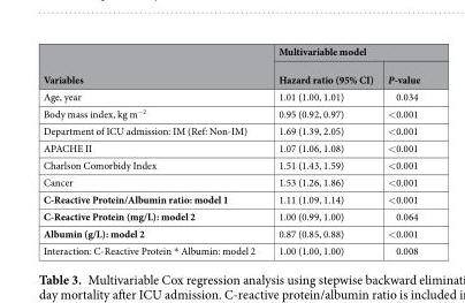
<table><thead><tr><td rowspan="2">Variables</td><td colspan="2">Multivariable model</td></tr><tr><td>Hazard ratio (95% CI)</td><td>P-value</td></tr></thead><tbody><tr><td>Age, year</td><td>1.01 (1.00, 1.01)</td><td>0.034</td></tr><tr><td>Body mass index, kg m<sup>−2</sup></td><td>0.95 (0.92, 0.97)</td><td>&lt;0.001</td></tr><tr><td>Department of ICU admission: IM (Ref: Non-IM)</td><td>1.69 (1.39, 2.05)</td><td>&lt;0.001</td></tr><tr><td>APACHE II</td><td>1.07 (1.06, 1.08)</td><td>&lt;0.001</td></tr><tr><td>Charlson Comorbidy Index</td><td>1.51 (1.43, 1.59)</td><td>&lt;0.001</td></tr><tr><td>Cancer</td><td>1.53 (1.26, 1.86)</td><td>&lt;0.001</td></tr><tr><td>C-Reactive Protein/Albumin ratio: model 1</td><td>1.11 (1.09, 1.14)</td><td>&lt;0.001</td></tr><tr><td>C-Reactive Protein (mg/L): model 2</td><td>1.00 (0.99, 1.00)</td><td>0.064</td></tr><tr><td>Albumin (g/L): model 2</td><td>0.87 (0.85, 0.88)</td><td>&lt;0.001</td></tr><tr><td>Interaction: C-Reactive Protein * Albumin: model 2</td><td>1.00 (1.00, 1.00)</td><td>0.008</td></tr></tbody></table>